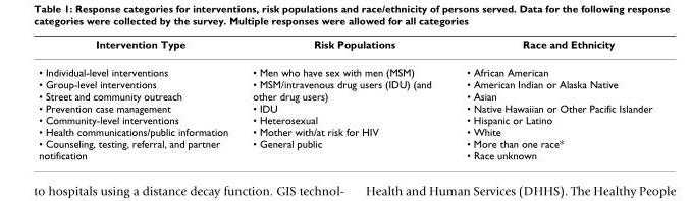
<table><thead><tr><td>Intervention Type</td><td>Risk Populations</td><td>Race and Ethnicity</td></tr></thead><tbody><tr><td>• Individual-level interventions • Group-level interventions • Street and community outreach • Prevention case management • Community-level interventions • Health communications/public information • Counseling, testing, referral, and partner notification</td><td>• Men who have sex with men (MSM) • MSM/intravenous drug users (IDU) (and other drug users) • IDU • Heterosexual • Mother with/at risk for HIV • General public</td><td>• African American • American Indian or Alaska Native • Asian • Native Hawaiian or Other Pacific Islander • Hispanic or Latino • White • More than one race* • Race unknown</td></tr></tbody></table>